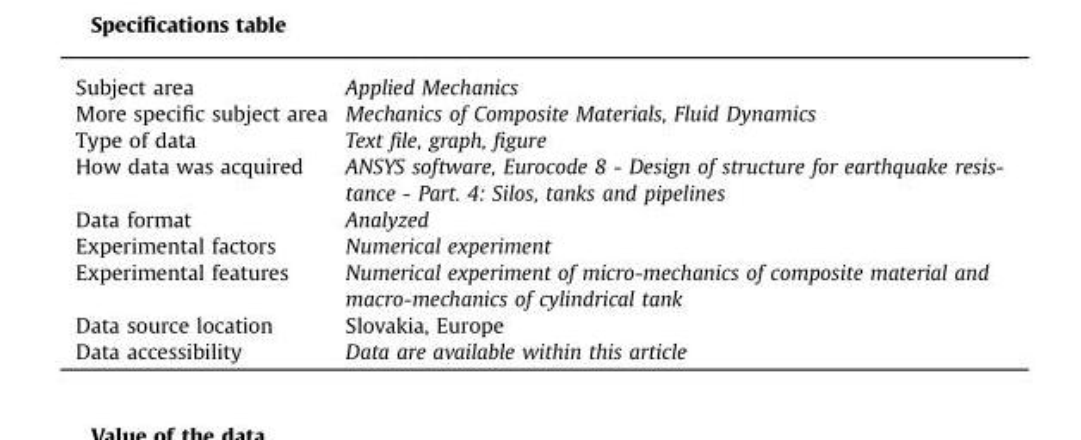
<table><tbody><tr><td>Subject area</td><td>Applied Mechanics</td></tr><tr><td>More specific subject area</td><td>Mechanics of Composite Materials, Fluid Dynamics</td></tr><tr><td>Type of data</td><td>Text file, graph, figure</td></tr><tr><td>How data was acquired</td><td>ANSYS software, Eurocode 8 - Design of structure for earthquake resis- tance - Part. 4: Silos, tanks and pipelines</td></tr><tr><td>Data format</td><td>Analyzed</td></tr><tr><td>Experimental factors</td><td>Numerical experiment</td></tr><tr><td>Experimental features</td><td>Numerical experiment of micro-mechanics of composite material and macro-mechanics of cylindrical tank</td></tr><tr><td>Data source location</td><td>Slovakia, Europe</td></tr><tr><td>Data accessibility</td><td>Data are available within this article</td></tr></tbody></table>